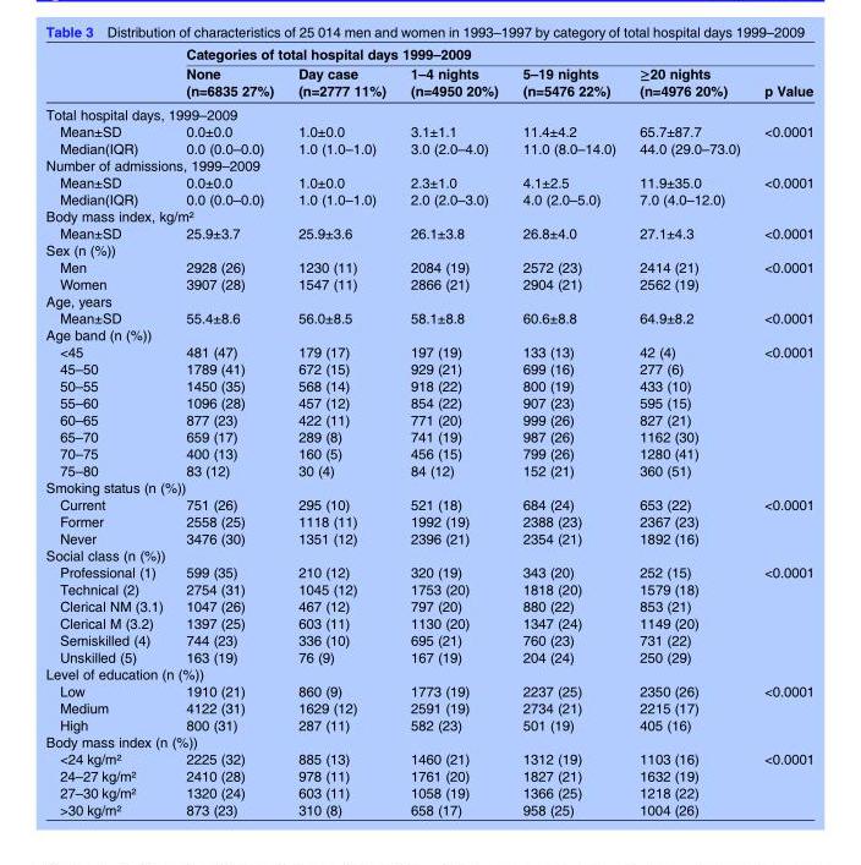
<table><thead><tr><td rowspan="2"></td><td colspan="6">Categories of total hospital days 1999–2009</td></tr><tr><td>None (n=6835 27%)</td><td>Day case (n=2777 11%)</td><td>1–4 nights (n=4950 20%)</td><td>5–19 nights (n=5476 22%)</td><td>≥20 nights (n=4976 20%)</td><td>p Value</td></tr></thead><tbody><tr><td colspan="7">Total hospital days, 1999–2009</td></tr><tr><td>Mean±SD</td><td>0.0±0.0</td><td>1.0±0.0</td><td>3.1±1.1</td><td>11.4±4.2</td><td>65.7±87.7</td><td>&lt;0.0001</td></tr><tr><td>Median(IQR)</td><td>0.0 (0.0–0.0)</td><td>1.0 (1.0–1.0)</td><td>3.0 (2.0–4.0)</td><td>11.0 (8.0–14.0)</td><td>44.0 (29.0–73.0)</td><td></td></tr><tr><td colspan="7">Number of admissions, 1999–2009</td></tr><tr><td>Mean±SD</td><td>0.0±0.0</td><td>1.0±0.0</td><td>2.3±1.0</td><td>4.1±2.5</td><td>11.9±35.0</td><td>&lt;0.0001</td></tr><tr><td>Median(IQR)</td><td>0.0 (0.0–0.0)</td><td>1.0 (1.0–1.0)</td><td>2.0 (2.0–3.0)</td><td>4.0 (2.0–5.0)</td><td>7.0 (4.0–12.0)</td><td></td></tr><tr><td colspan="7">Body mass index, kg/m²</td></tr><tr><td>Mean±SD</td><td>25.9±3.7</td><td>25.9±3.6</td><td>26.1±3.8</td><td>26.8±4.0</td><td>27.1±4.3</td><td>&lt;0.0001</td></tr><tr><td colspan="7">Sex (n (%))</td></tr><tr><td>Men</td><td>2928 (26)</td><td>1230 (11)</td><td>2084 (19)</td><td>2572 (23)</td><td>2414 (21)</td><td>&lt;0.0001</td></tr><tr><td>Women</td><td>3907 (28)</td><td>1547 (11)</td><td>2866 (21)</td><td>2904 (21)</td><td>2562 (19)</td><td></td></tr><tr><td colspan="7">Age, years</td></tr><tr><td>Mean±SD</td><td>55.4±8.6</td><td>56.0±8.5</td><td>58.1±8.8</td><td>60.6±8.8</td><td>64.9±8.2</td><td>&lt;0.0001</td></tr><tr><td colspan="7">Age band (n (%))</td></tr><tr><td>&lt;45</td><td>481 (47)</td><td>179 (17)</td><td>197 (19)</td><td>133 (13)</td><td>42 (4)</td><td>&lt;0.0001</td></tr><tr><td>45–50</td><td>1789 (41)</td><td>672 (15)</td><td>929 (21)</td><td>699 (16)</td><td>277 (6)</td><td></td></tr><tr><td>50–55</td><td>1450 (35)</td><td>568 (14)</td><td>918 (22)</td><td>800 (19)</td><td>433 (10)</td><td></td></tr><tr><td>55–60</td><td>1096 (28)</td><td>457 (12)</td><td>854 (22)</td><td>907 (23)</td><td>595 (15)</td><td></td></tr><tr><td>60–65</td><td>877 (23)</td><td>422 (11)</td><td>771 (20)</td><td>999 (26)</td><td>827 (21)</td><td></td></tr><tr><td>65–70</td><td>659 (17)</td><td>289 (8)</td><td>741 (19)</td><td>987 (26)</td><td>1162 (30)</td><td></td></tr><tr><td>70–75</td><td>400 (13)</td><td>160 (5)</td><td>456 (15)</td><td>799 (26)</td><td>1280 (41)</td><td></td></tr><tr><td>75–80</td><td>83 (12)</td><td>30 (4)</td><td>84 (12)</td><td>152 (21)</td><td>360 (51)</td><td></td></tr><tr><td colspan="7">Smoking status (n (%))</td></tr><tr><td>Current</td><td>751 (26)</td><td>295 (10)</td><td>521 (18)</td><td>684 (24)</td><td>653 (22)</td><td>&lt;0.0001</td></tr><tr><td>Former</td><td>2558 (25)</td><td>1118 (11)</td><td>1992 (19)</td><td>2388 (23)</td><td>2367 (23)</td><td></td></tr><tr><td>Never</td><td>3476 (30)</td><td>1351 (12)</td><td>2396 (21)</td><td>2354 (21)</td><td>1892 (16)</td><td></td></tr><tr><td colspan="7">Social class (n (%))</td></tr><tr><td>Professional (1)</td><td>599 (35)</td><td>210 (12)</td><td>320 (19)</td><td>343 (20)</td><td>252 (15)</td><td>&lt;0.0001</td></tr><tr><td>Technical (2)</td><td>2754 (31)</td><td>1045 (12)</td><td>1753 (20)</td><td>1818 (20)</td><td>1579 (18)</td><td></td></tr><tr><td>Clerical NM (3.1)</td><td>1047 (26)</td><td>467 (12)</td><td>797 (20)</td><td>880 (22)</td><td>853 (21)</td><td></td></tr><tr><td>Clerical M (3.2)</td><td>1397 (25)</td><td>603 (11)</td><td>1130 (20)</td><td>1347 (24)</td><td>1149 (20)</td><td></td></tr><tr><td>Semiskilled (4)</td><td>744 (23)</td><td>336 (10)</td><td>695 (21)</td><td>760 (23)</td><td>731 (22)</td><td></td></tr><tr><td>Unskilled (5)</td><td>163 (19)</td><td>76 (9)</td><td>167 (19)</td><td>204 (24)</td><td>250 (29)</td><td></td></tr><tr><td colspan="7">Level of education (n (%))</td></tr><tr><td>Low</td><td>1910 (21)</td><td>860 (9)</td><td>1773 (19)</td><td>2237 (25)</td><td>2350 (26)</td><td>&lt;0.0001</td></tr><tr><td>Medium</td><td>4122 (31)</td><td>1629 (12)</td><td>2591 (19)</td><td>2734 (21)</td><td>2215 (17)</td><td></td></tr><tr><td>High</td><td>800 (31)</td><td>287 (11)</td><td>582 (23)</td><td>501 (19)</td><td>405 (16)</td><td></td></tr><tr><td colspan="7">Body mass index (n (%))</td></tr><tr><td>&lt;24 kg/m²</td><td>2225 (32)</td><td>885 (13)</td><td>1460 (21)</td><td>1312 (19)</td><td>1103 (16)</td><td>&lt;0.0001</td></tr><tr><td>24–27 kg/m²</td><td>2410 (28)</td><td>978 (11)</td><td>1761 (20)</td><td>1827 (21)</td><td>1632 (19)</td><td></td></tr><tr><td>27–30 kg/m²</td><td>1320 (24)</td><td>603 (11)</td><td>1058 (19)</td><td>1366 (25)</td><td>1218 (22)</td><td></td></tr><tr><td>&gt;30 kg/m²</td><td>873 (23)</td><td>310 (8)</td><td>658 (17)</td><td>958 (25)</td><td>1004 (26)</td><td></td></tr></tbody></table>